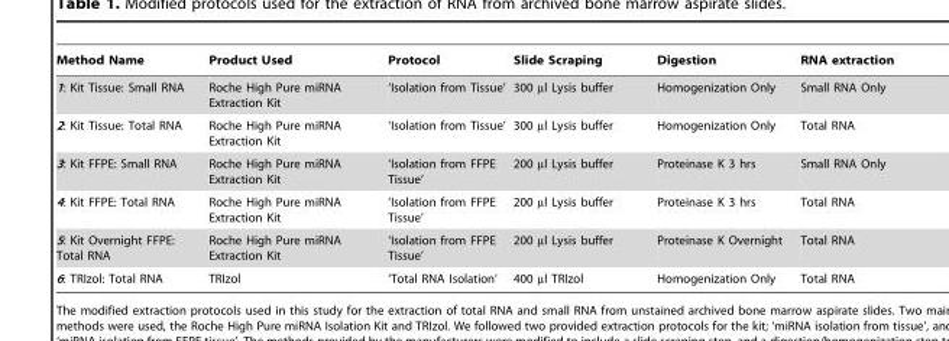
<table><thead><tr><td>Method Name</td><td>Product Used</td><td>Protocol</td><td>Slide Scraping</td><td>Digestion</td><td>RNA extraction</td></tr></thead><tbody><tr><td>1: Kit Tissue: Small RNA</td><td>Roche High Pure miRNA Extraction Kit</td><td>‘Isolation from Tissue’</td><td>300 µl Lysis buffer</td><td>Homogenization Only</td><td>Small RNA Only</td></tr><tr><td>2: Kit Tissue: Total RNA</td><td>Roche High Pure miRNA Extraction Kit</td><td>‘Isolation from Tissue’</td><td>300 µl Lysis buffer</td><td>Homogenization Only</td><td>Total RNA</td></tr><tr><td>3: Kit FFPE: Small RNA</td><td>Roche High Pure miRNA Extraction Kit</td><td>‘Isolation from FFPE Tissue’</td><td>200 µl Lysis buffer</td><td>Proteinase K 3 hrs</td><td>Small RNA Only</td></tr><tr><td>4: Kit FFPE: Total RNA</td><td>Roche High Pure miRNA Extraction Kit</td><td>‘Isolation from FFPE Tissue’</td><td>200 µl Lysis buffer</td><td>Proteinase K 3 hrs</td><td>Total RNA</td></tr><tr><td>5: Kit Overnight FFPE: Total RNA</td><td>Roche High Pure miRNA Extraction Kit</td><td>‘Isolation from FFPE Tissue’</td><td>200 µl Lysis buffer</td><td>Proteinase K Overnight</td><td>Total RNA</td></tr><tr><td>6: TRIzol: Total RNA</td><td>TRIzol</td><td>‘Total RNA Isolation’</td><td>400 µl TRIzol</td><td>Homogenization Only</td><td>Total RNA</td></tr></tbody></table>